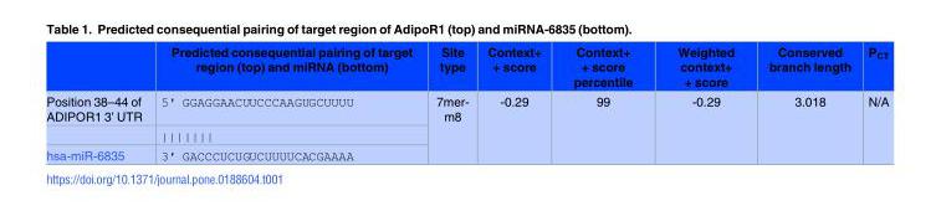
<table><thead><tr><td></td><td>Predicted consequential pairing of target region (top) and miRNA (bottom)</td><td>Site type</td><td>Context+ + score</td><td>Context+ + score percentile</td><td>Weighted context+ + score</td><td>Conserved branch length</td><td>P<sub>CT</sub></td></tr></thead><tbody><tr><td rowspan="2">Position 38–44 of ADIPOR1 3’ UTR</td><td>5&#x27; GGAGGAACUUCCCAAGUGCUUUU</td><td rowspan="3">7mer- m8</td><td rowspan="3">-0.29</td><td rowspan="3">99</td><td rowspan="3">-0.29</td><td rowspan="3">3.018</td><td rowspan="3">N/A</td></tr><tr><td>|||||||</td></tr><tr><td>hsa-miR-6835</td><td>3&#x27; GACCCUCUGUCUUUUCACGAAAA</td></tr></tbody></table>